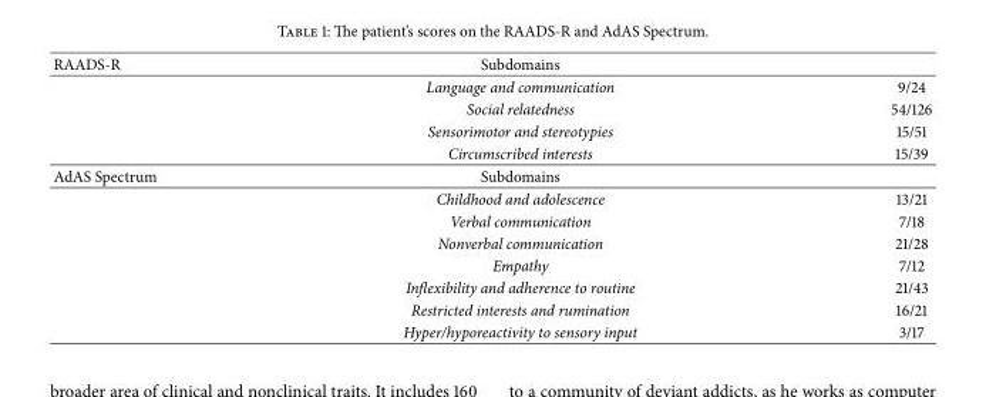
<table><tbody><tr><td rowspan="5">RAADS-R</td><td>Subdomains</td><td></td></tr><tr><td>Language and communication</td><td>9/24</td></tr><tr><td>Social relatedness</td><td>54/126</td></tr><tr><td>Sensorimotor and stereotypies</td><td>15/51</td></tr><tr><td>Circumscribed interests</td><td>15/39</td></tr><tr><td rowspan="8">AdAS Spectrum</td><td>Subdomains</td><td></td></tr><tr><td>Childhood and adolescence</td><td>13/21</td></tr><tr><td>Verbal communication</td><td>7/18</td></tr><tr><td>Nonverbal communication</td><td>21/28</td></tr><tr><td>Empathy</td><td>7/12</td></tr><tr><td>Inflexibility and adherence to routine</td><td>21/43</td></tr><tr><td>Restricted interests and rumination</td><td>16/21</td></tr><tr><td>Hyper/hyporeactivity to sensory input</td><td>3/17</td></tr></tbody></table>